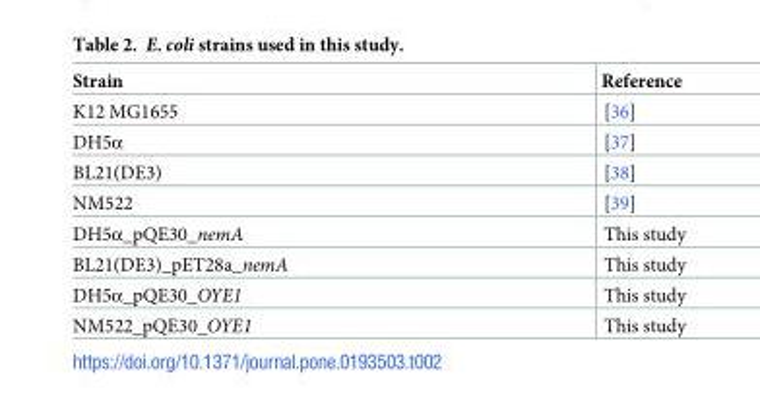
<table><thead><tr><td>Strain</td><td>Reference</td></tr></thead><tbody><tr><td>K12 MG1655</td><td>[36]</td></tr><tr><td>DH5α</td><td>[37]</td></tr><tr><td>BL21(DE3)</td><td>[38]</td></tr><tr><td>NM522</td><td>[39]</td></tr><tr><td>DH5α_pQE30_nemA</td><td>This study</td></tr><tr><td>BL21(DE3)_pET28a_nemA</td><td>This study</td></tr><tr><td>DH5α_pQE30_OYE1</td><td>This study</td></tr><tr><td>NM522_pQE30_OYE1</td><td>This study</td></tr></tbody></table>